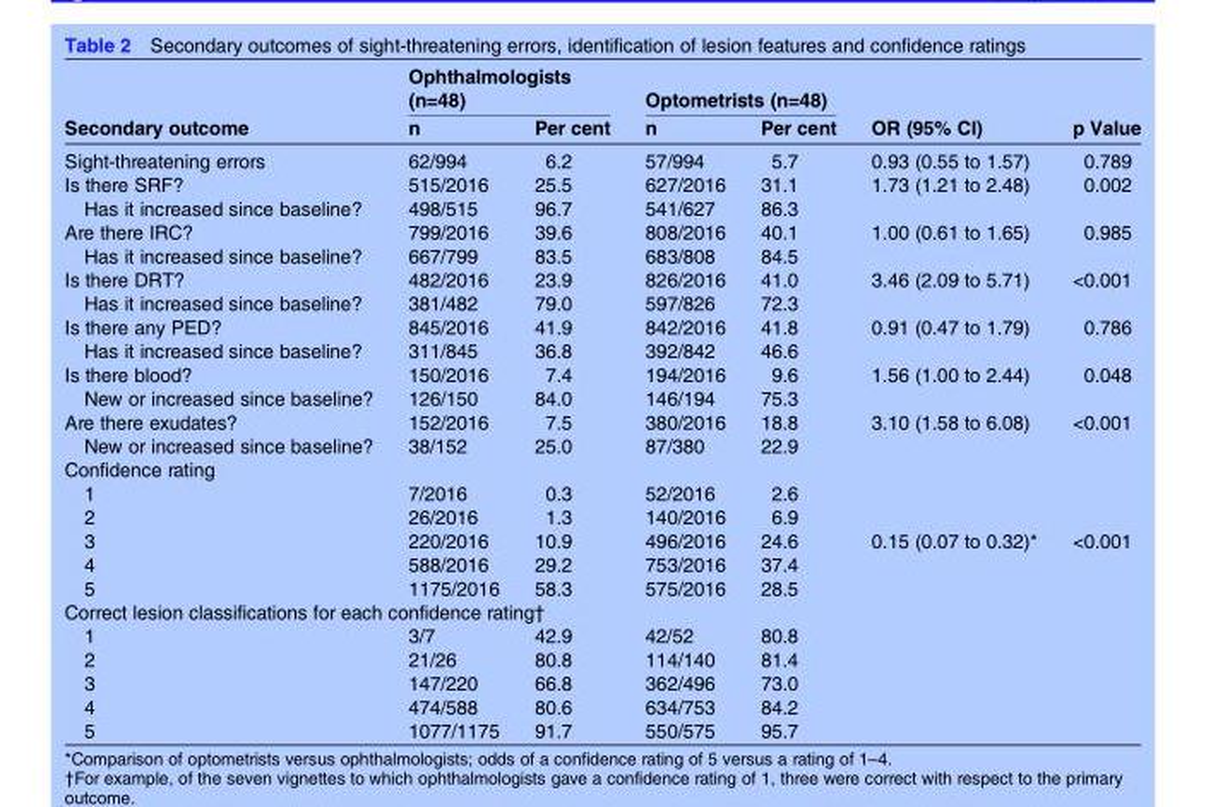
<table><thead><tr><td rowspan="2">Secondary outcome</td><td colspan="2">Ophthalmologists (n=48)</td><td colspan="2">Optometrists (n=48)</td><td rowspan="2">OR (95% CI)</td><td rowspan="2">p Value</td></tr><tr><td>n</td><td>Per cent</td><td>n</td><td>Per cent</td></tr></thead><tbody><tr><td>Sight-threatening errors</td><td>62/994</td><td>6.2</td><td>57/994</td><td>5.7</td><td>0.93 (0.55 to 1.57)</td><td>0.789</td></tr><tr><td>Is there SRF?</td><td>515/2016</td><td>25.5</td><td>627/2016</td><td>31.1</td><td>1.73 (1.21 to 2.48)</td><td>0.002</td></tr><tr><td>Has it increased since baseline?</td><td>498/515</td><td>96.7</td><td>541/627</td><td>86.3</td><td></td><td></td></tr><tr><td>Are there IRC?</td><td>799/2016</td><td>39.6</td><td>808/2016</td><td>40.1</td><td>1.00 (0.61 to 1.65)</td><td>0.985</td></tr><tr><td>Has it increased since baseline?</td><td>667/799</td><td>83.5</td><td>683/808</td><td>84.5</td><td></td><td></td></tr><tr><td>Is there DRT?</td><td>482/2016</td><td>23.9</td><td>826/2016</td><td>41.0</td><td>3.46 (2.09 to 5.71)</td><td>&lt;0.001</td></tr><tr><td>Has it increased since baseline?</td><td>381/482</td><td>79.0</td><td>597/826</td><td>72.3</td><td></td><td></td></tr><tr><td>Is there any PED?</td><td>845/2016</td><td>41.9</td><td>842/2016</td><td>41.8</td><td>0.91 (0.47 to 1.79)</td><td>0.786</td></tr><tr><td>Has it increased since baseline?</td><td>311/845</td><td>36.8</td><td>392/842</td><td>46.6</td><td></td><td></td></tr><tr><td>Is there blood?</td><td>150/2016</td><td>7.4</td><td>194/2016</td><td>9.6</td><td>1.56 (1.00 to 2.44)</td><td>0.048</td></tr><tr><td>New or increased since baseline?</td><td>126/150</td><td>84.0</td><td>146/194</td><td>75.3</td><td></td><td></td></tr><tr><td>Are there exudates?</td><td>152/2016</td><td>7.5</td><td>380/2016</td><td>18.8</td><td>3.10 (1.58 to 6.08)</td><td>&lt;0.001</td></tr><tr><td>New or increased since baseline?</td><td>38/152</td><td>25.0</td><td>87/380</td><td>22.9</td><td></td><td></td></tr><tr><td colspan="7">Confidence rating</td></tr><tr><td>1</td><td>7/2016</td><td>0.3</td><td>52/2016</td><td>2.6</td><td></td><td></td></tr><tr><td>2</td><td>26/2016</td><td>1.3</td><td>140/2016</td><td>6.9</td><td></td><td></td></tr><tr><td>3</td><td>220/2016</td><td>10.9</td><td>496/2016</td><td>24.6</td><td>0.15 (0.07 to 0.32)*</td><td>&lt;0.001</td></tr><tr><td>4</td><td>588/2016</td><td>29.2</td><td>753/2016</td><td>37.4</td><td></td><td></td></tr><tr><td>5</td><td>1175/2016</td><td>58.3</td><td>575/2016</td><td>28.5</td><td></td><td></td></tr><tr><td colspan="7">Correct lesion classifications for each confidence rating†</td></tr><tr><td>1</td><td>3/7</td><td>42.9</td><td>42/52</td><td>80.8</td><td></td><td></td></tr><tr><td>2</td><td>21/26</td><td>80.8</td><td>114/140</td><td>81.4</td><td></td><td></td></tr><tr><td>3</td><td>147/220</td><td>66.8</td><td>362/496</td><td>73.0</td><td></td><td></td></tr><tr><td>4</td><td>474/588</td><td>80.6</td><td>634/753</td><td>84.2</td><td></td><td></td></tr><tr><td>5</td><td>1077/1175</td><td>91.7</td><td>550/575</td><td>95.7</td><td></td><td></td></tr></tbody></table>